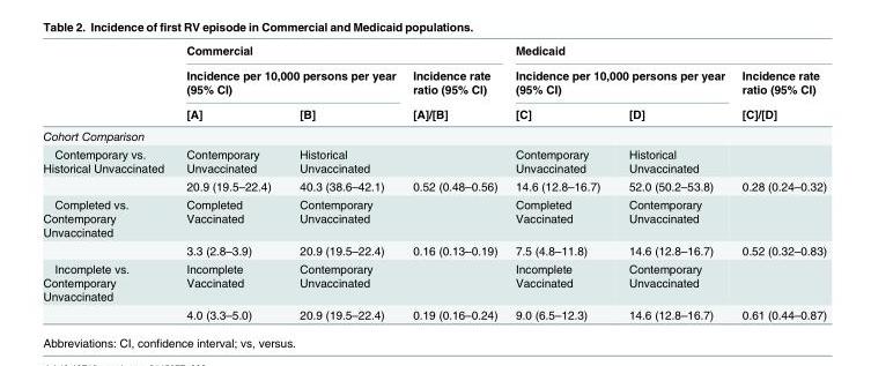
<table><thead><tr><td rowspan="3"></td><td colspan="3">Commercial</td><td colspan="3">Medicaid</td></tr><tr><td colspan="2">Incidence per 10,000 persons per year (95% CI)</td><td rowspan="2">Incidence rate ratio (95% CI) [A]/[B]</td><td colspan="2">Incidence per 10,000 persons per year (95% CI)</td><td rowspan="2">Incidence rate ratio (95% CI) [C]/[D]</td></tr><tr><td>[A]</td><td>[B]</td><td>[C]</td><td>[D]</td></tr></thead><tbody><tr><td colspan="7">Cohort Comparison</td></tr><tr><td rowspan="2">Contemporary vs. Historical Unvaccinated</td><td>Contemporary Unvaccinated</td><td>Historical Unvaccinated</td><td></td><td>Contemporary Unvaccinated</td><td>Historical Unvaccinated</td><td></td></tr><tr><td>20.9 (19.5–22.4)</td><td>40.3 (38.6–42.1)</td><td>0.52 (0.48–0.56)</td><td>14.6 (12.8–16.7)</td><td>52.0 (50.2–53.8)</td><td>0.28 (0.24–0.32)</td></tr><tr><td rowspan="2">Completed vs. Contemporary Unvaccinated</td><td>Completed Vaccinated</td><td>Contemporary Unvaccinated</td><td></td><td>Completed Vaccinated</td><td>Contemporary Unvaccinated</td><td></td></tr><tr><td>3.3 (2.8–3.9)</td><td>20.9 (19.5–22.4)</td><td>0.16 (0.13–0.19)</td><td>7.5 (4.8–11.8)</td><td>14.6 (12.8–16.7)</td><td>0.52 (0.32–0.83)</td></tr><tr><td rowspan="2">Incomplete vs. Contemporary Unvaccinated</td><td>Incomplete Vaccinated</td><td>Contemporary Unvaccinated</td><td></td><td>Incomplete Vaccinated</td><td>Contemporary Unvaccinated</td><td></td></tr><tr><td>4.0 (3.3–5.0)</td><td>20.9 (19.5–22.4)</td><td>0.19 (0.16–0.24)</td><td>9.0 (6.5–12.3)</td><td>14.6 (12.8–16.7)</td><td>0.61 (0.44–0.87)</td></tr></tbody></table>